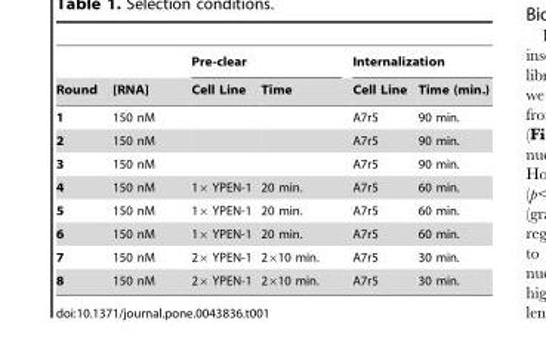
<table><thead><tr><td rowspan="2">Round</td><td rowspan="2">[RNA]</td><td colspan="2">Pre-clear</td><td colspan="2">Internalization</td></tr><tr><td>Cell Line</td><td>Time</td><td>Cell Line</td><td>Time (min.)</td></tr></thead><tbody><tr><td>1</td><td>150 nM</td><td></td><td></td><td>A7r5</td><td>90 min.</td></tr><tr><td>2</td><td>150 nM</td><td></td><td></td><td>A7r5</td><td>90 min.</td></tr><tr><td>3</td><td>150 nM</td><td></td><td></td><td>A7r5</td><td>90 min.</td></tr><tr><td>4</td><td>150 nM</td><td>1× YPEN-1</td><td>20 min.</td><td>A7r5</td><td>60 min.</td></tr><tr><td>5</td><td>150 nM</td><td>1× YPEN-1</td><td>20 min.</td><td>A7r5</td><td>60 min.</td></tr><tr><td>6</td><td>150 nM</td><td>1× YPEN-1</td><td>20 min.</td><td>A7r5</td><td>60 min.</td></tr><tr><td>7</td><td>150 nM</td><td>2× YPEN-1</td><td>2×10 min.</td><td>A7r5</td><td>30 min.</td></tr><tr><td>8</td><td>150 nM</td><td>2× YPEN-1</td><td>2×10 min.</td><td>A7r5</td><td>30 min.</td></tr></tbody></table>